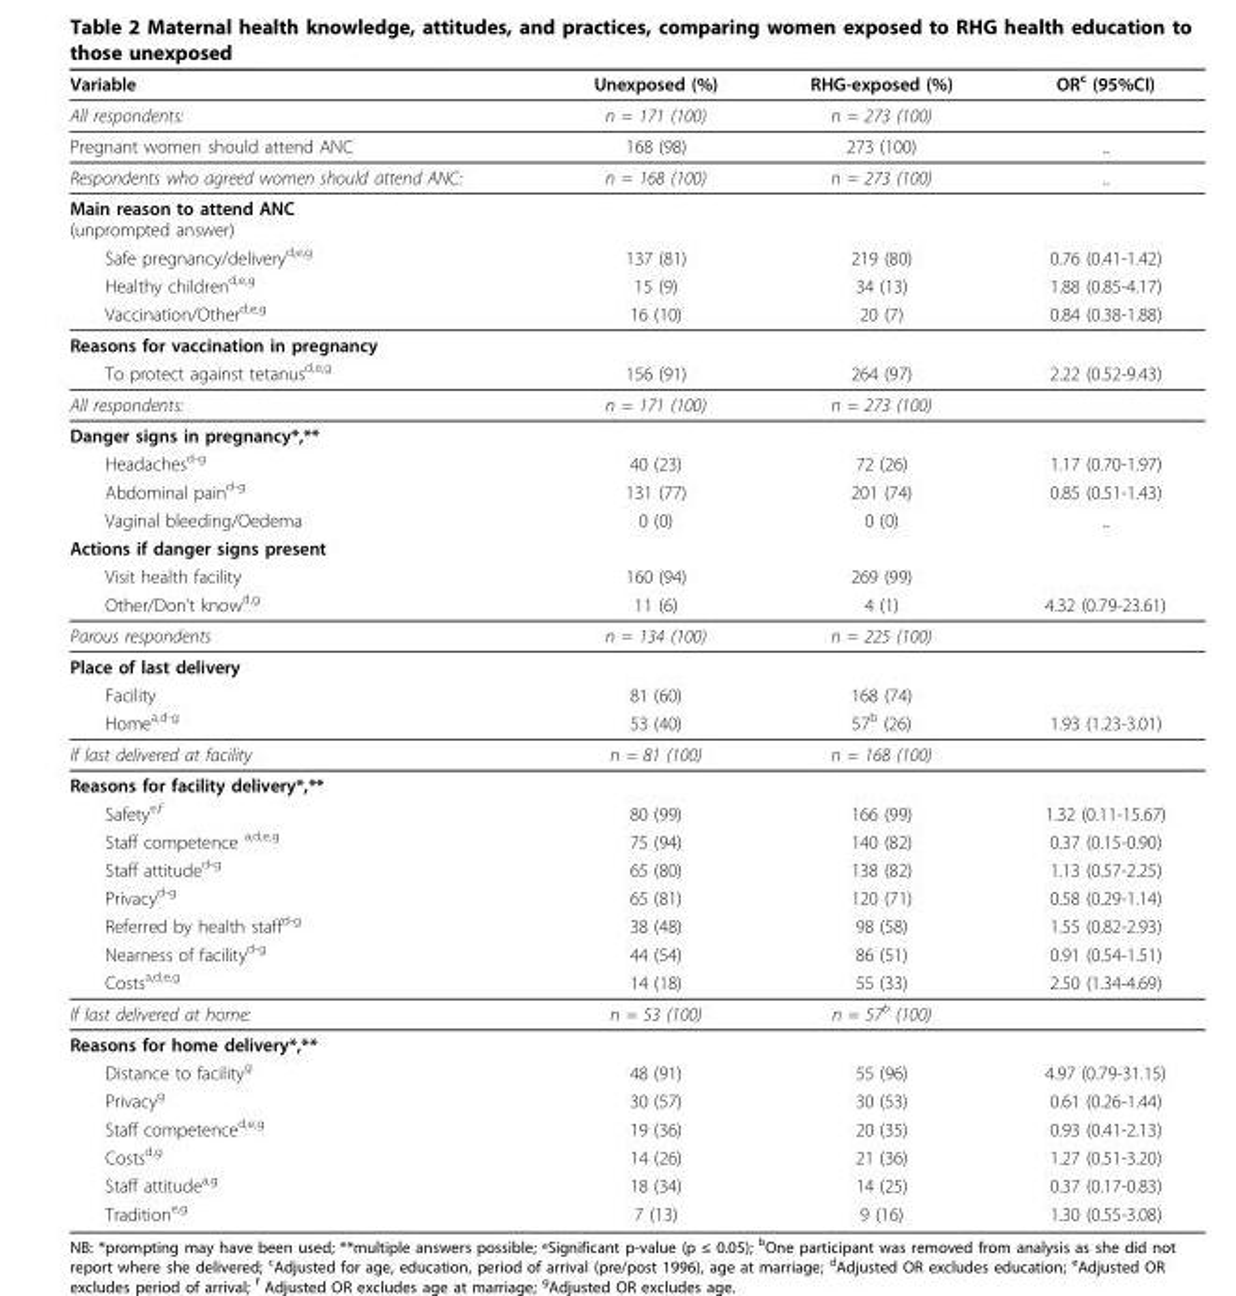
<table><thead><tr><td>Variable</td><td>Unexposed (%)</td><td>RHG-exposed (%)</td><td>OR<sup>c</sup> (95%CI)</td></tr></thead><tbody><tr><td>All respondents:</td><td>n = 171 (100)</td><td>n = 273 (100)</td><td></td></tr><tr><td>Pregnant women should attend ANC</td><td>168 (98)</td><td>273 (100)</td><td>..</td></tr><tr><td>Respondents who agreed women should attend ANC:</td><td>n = 168 (100)</td><td>n = 273 (100)</td><td>..</td></tr><tr><td colspan="4">Main reason to attend ANC (unprompted answer)</td></tr><tr><td>Safe pregnancy/delivery<sup>d,e,g</sup></td><td>137 (81)</td><td>219 (80)</td><td>0.76 (0.41-1.42)</td></tr><tr><td>Healthy children<sup>d,e,g</sup></td><td>15 (9)</td><td>34 (13)</td><td>1.88 (0.85-4.17)</td></tr><tr><td>Vaccination/Other<sup>d,e,g</sup></td><td>16 (10)</td><td>20 (7)</td><td>0.84 (0.38-1.88)</td></tr><tr><td colspan="4">Reasons for vaccination in pregnancy</td></tr><tr><td>To protect against tetanus<sup>d,e,g</sup></td><td>156 (91)</td><td>264 (97)</td><td>2.22 (0.52-9.43)</td></tr><tr><td>All respondents:</td><td>n = 171 (100)</td><td>n = 273 (100)</td><td></td></tr><tr><td colspan="4">Danger signs in pregnancy*,**</td></tr><tr><td>Headaches<sup>d-g</sup></td><td>40 (23)</td><td>72 (26)</td><td>1.17 (0.70-1.97)</td></tr><tr><td>Abdominal pain<sup>d-g</sup></td><td>131 (77)</td><td>201 (74)</td><td>0.85 (0.51-1.43)</td></tr><tr><td>Vaginal bleeding/Oedema</td><td>0 (0)</td><td>0 (0)</td><td>..</td></tr><tr><td colspan="4">Actions if danger signs present</td></tr><tr><td>Visit health facility</td><td>160 (94)</td><td>269 (99)</td><td></td></tr><tr><td>Other/Don’t know<sup>d,g</sup></td><td>11 (6)</td><td>4 (1)</td><td>4.32 (0.79-23.61)</td></tr><tr><td>Parous respondents</td><td>n = 134 (100)</td><td>n = 225 (100)</td><td></td></tr><tr><td colspan="4">Place of last delivery</td></tr><tr><td>Facility</td><td>81 (60)</td><td>168 (74)</td><td></td></tr><tr><td>Home<sup>a,d-g</sup></td><td>53 (40)</td><td>57<sup>b</sup> (26)</td><td>1.93 (1.23-3.01)</td></tr><tr><td>If last delivered at facility</td><td>n = 81 (100)</td><td>n = 168 (100)</td><td></td></tr><tr><td colspan="4">Reasons for facility delivery*,**</td></tr><tr><td>Safety<sup>e,f</sup></td><td>80 (99)</td><td>166 (99)</td><td>1.32 (0.11-15.67)</td></tr><tr><td>Staff competence <sup>a,d,e,g</sup></td><td>75 (94)</td><td>140 (82)</td><td>0.37 (0.15-0.90)</td></tr><tr><td>Staff attitude<sup>d-g</sup></td><td>65 (80)</td><td>138 (82)</td><td>1.13 (0.57-2.25)</td></tr><tr><td>Privacy<sup>d-g</sup></td><td>65 (81)</td><td>120 (71)</td><td>0.58 (0.29-1.14)</td></tr><tr><td>Referred by health staff<sup>d-g</sup></td><td>38 (48)</td><td>98 (58)</td><td>1.55 (0.82-2.93)</td></tr><tr><td>Nearness of facility<sup>d-g</sup></td><td>44 (54)</td><td>86 (51)</td><td>0.91 (0.54-1.51)</td></tr><tr><td>Costs<sup>a,d,e,g</sup></td><td>14 (18)</td><td>55 (33)</td><td>2.50 (1.34-4.69)</td></tr><tr><td>If last delivered at home:</td><td>n = 53 (100)</td><td>n = 57<sup>b</sup> (100)</td><td></td></tr><tr><td colspan="4">Reasons for home delivery*,**</td></tr><tr><td>Distance to facility<sup>g</sup></td><td>48 (91)</td><td>55 (96)</td><td>4.97 (0.79-31.15)</td></tr><tr><td>Privacy<sup>g</sup></td><td>30 (57)</td><td>30 (53)</td><td>0.61 (0.26-1.44)</td></tr><tr><td>Staff competence<sup>d,e,g</sup></td><td>19 (36)</td><td>20 (35)</td><td>0.93 (0.41-2.13)</td></tr><tr><td>Costs<sup>d,g</sup></td><td>14 (26)</td><td>21 (36)</td><td>1.27 (0.51-3.20)</td></tr><tr><td>Staff attitude<sup>a,g</sup></td><td>18 (34)</td><td>14 (25)</td><td>0.37 (0.17-0.83)</td></tr><tr><td>Tradition<sup>e,g</sup></td><td>7 (13)</td><td>9 (16)</td><td>1.30 (0.55-3.08)</td></tr></tbody></table>